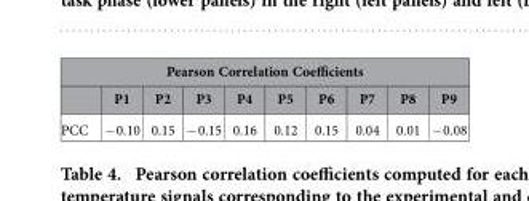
<table><thead><tr><td colspan="10">Pearson Correlation Coefficients</td></tr><tr><td></td><td>P1</td><td>P2</td><td>P3</td><td>P4</td><td>P5</td><td>P6</td><td>P7</td><td>P8</td><td>P9</td></tr></thead><tbody><tr><td>PCC</td><td>− 0.10</td><td>0.15</td><td>− 0.15</td><td>0.16</td><td>0.12</td><td>0.15</td><td>0.04</td><td>0.01</td><td>− 0.08</td></tr></tbody></table>